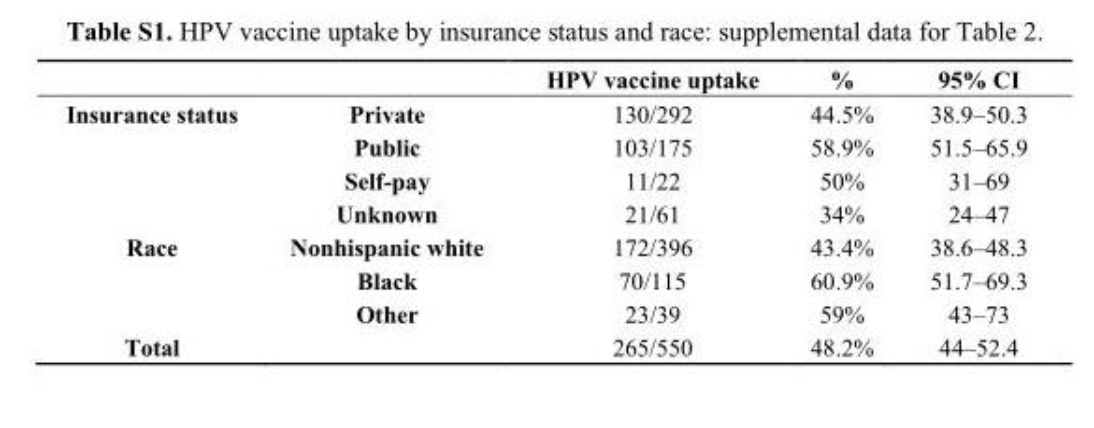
<table><thead><tr><td></td><td></td><td>HPV vaccine uptake</td><td>%</td><td>95% CI</td></tr></thead><tbody><tr><td rowspan="4">Insurance status</td><td>Private</td><td>130/292</td><td>44.5%</td><td>38.9–50.3</td></tr><tr><td>Public</td><td>103/175</td><td>58.9%</td><td>51.5–65.9</td></tr><tr><td>Self-pay</td><td>11/22</td><td>50%</td><td>31–69</td></tr><tr><td>Unknown</td><td>21/61</td><td>34%</td><td>24–47</td></tr><tr><td rowspan="3">Race</td><td>Nonhispanic white</td><td>172/396</td><td>43.4%</td><td>38.6–48.3</td></tr><tr><td>Black</td><td>70/115</td><td>60.9%</td><td>51.7–69.3</td></tr><tr><td>Other</td><td>23/39</td><td>59%</td><td>43–73</td></tr><tr><td>Total</td><td></td><td>265/550</td><td>48.2%</td><td>44–52.4</td></tr></tbody></table>